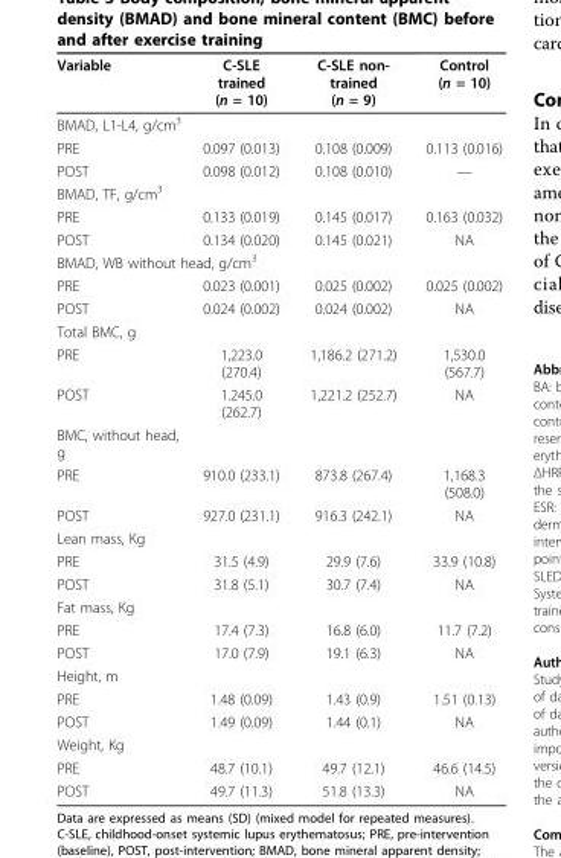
<table><thead><tr><td>Variable</td><td>C-SLE trained (n = 10)</td><td>C-SLE non- trained (n = 9)</td><td>Control (n = 10)</td></tr></thead><tbody><tr><td colspan="4">BMAD, L1-L4, g/cm<sup>3</sup></td></tr><tr><td>PRE</td><td>0.097 (0.013)</td><td>0.108 (0.009)</td><td>0.113 (0.016)</td></tr><tr><td>POST</td><td>0.098 (0.012)</td><td>0.108 (0.010)</td><td>—</td></tr><tr><td colspan="4">BMAD, TF, g/cm<sup>3</sup></td></tr><tr><td>PRE</td><td>0.133 (0.019)</td><td>0.145 (0.017)</td><td>0.163 (0.032)</td></tr><tr><td>POST</td><td>0.134 (0.020)</td><td>0.145 (0.021)</td><td>NA</td></tr><tr><td colspan="4">BMAD, WB without head, g/cm<sup>3</sup></td></tr><tr><td>PRE</td><td>0.023 (0.001)</td><td>0.025 (0.002)</td><td>0.025 (0.002)</td></tr><tr><td>POST</td><td>0.024 (0.002)</td><td>0.024 (0.002)</td><td>NA</td></tr><tr><td colspan="4">Total BMC, g</td></tr><tr><td>PRE</td><td>1,223.0 (270.4)</td><td>1,186.2 (271.2)</td><td>1,530.0 (567.7)</td></tr><tr><td>POST</td><td>1.245.0 (262.7)</td><td>1,221.2 (252.7)</td><td>NA</td></tr><tr><td colspan="4">BMC, without head, g</td></tr><tr><td>PRE</td><td>910.0 (233.1)</td><td>873.8 (267.4)</td><td>1,168.3 (508.0)</td></tr><tr><td>POST</td><td>927.0 (231.1)</td><td>916.3 (242.1)</td><td>NA</td></tr><tr><td colspan="4">Lean mass, Kg</td></tr><tr><td>PRE</td><td>31.5 (4.9)</td><td>29.9 (7.6)</td><td>33.9 (10.8)</td></tr><tr><td>POST</td><td>31.8 (5.1)</td><td>30.7 (7.4)</td><td>NA</td></tr><tr><td colspan="4">Fat mass, Kg</td></tr><tr><td>PRE</td><td>17.4 (7.3)</td><td>16.8 (6.0)</td><td>11.7 (7.2)</td></tr><tr><td>POST</td><td>17.0 (7.9)</td><td>19.1 (6.3)</td><td>NA</td></tr><tr><td colspan="4">Height, m</td></tr><tr><td>PRE</td><td>1.48 (0.09)</td><td>1.43 (0.9)</td><td>1.51 (0.13)</td></tr><tr><td>POST</td><td>1.49 (0.09)</td><td>1.44 (0.1)</td><td>NA</td></tr><tr><td colspan="4">Weight, Kg</td></tr><tr><td>PRE</td><td>48.7 (10.1)</td><td>49.7 (12.1)</td><td>46.6 (14.5)</td></tr><tr><td>POST</td><td>49.7 (11.3)</td><td>51.8 (13.3)</td><td>NA</td></tr></tbody></table>